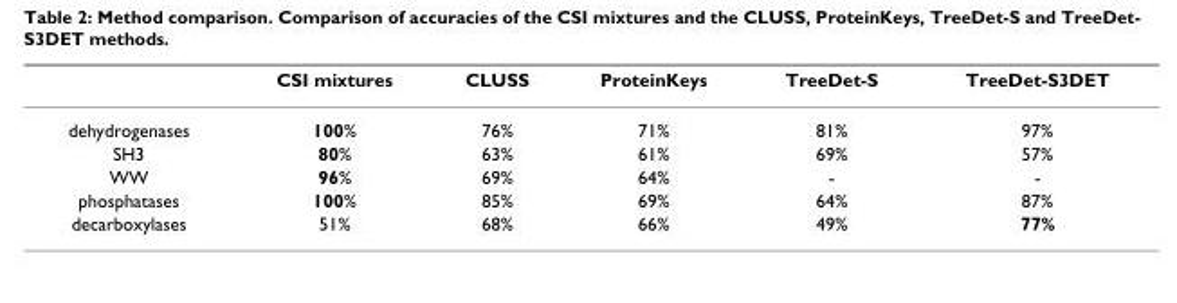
<table><thead><tr><td></td><td>CSI mixtures</td><td>CLUSS</td><td>ProteinKeys</td><td>TreeDet-S</td><td>TreeDet-S3DET</td></tr></thead><tbody><tr><td>dehydrogenases</td><td>100%</td><td>76%</td><td>71%</td><td>81%</td><td>97%</td></tr><tr><td>SH3</td><td>80%</td><td>63%</td><td>61%</td><td>69%</td><td>57%</td></tr><tr><td>WW</td><td>96%</td><td>69%</td><td>64%</td><td>-</td><td>-</td></tr><tr><td>phosphatases</td><td>100%</td><td>85%</td><td>69%</td><td>64%</td><td>87%</td></tr><tr><td>decarboxylases</td><td>51%</td><td>68%</td><td>66%</td><td>49%</td><td>77%</td></tr></tbody></table>